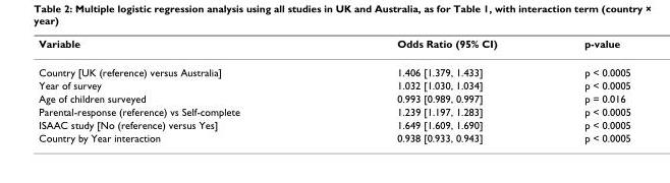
<table><thead><tr><td>Variable</td><td>Odds Ratio (95% CI)</td><td>p-value</td></tr></thead><tbody><tr><td>Country [UK (reference) versus Australia]</td><td>1.406 [1.379, 1.433]</td><td>p &lt; 0.0005</td></tr><tr><td>Year of survey</td><td>1.032 [1.030, 1.034]</td><td>p &lt; 0.0005</td></tr><tr><td>Age of children surveyed</td><td>0.993 [0.989, 0.997]</td><td>p = 0.016</td></tr><tr><td>Parental-response (reference) vs Self-complete</td><td>1.239 [1.197, 1.283]</td><td>p &lt; 0.0005</td></tr><tr><td>ISAAC study [No (reference) versus Yes]</td><td>1.649 [1.609, 1.690]</td><td>p &lt; 0.0005</td></tr><tr><td>Country by Year interaction</td><td>0.938 [0.933, 0.943]</td><td>p &lt; 0.0005</td></tr></tbody></table>